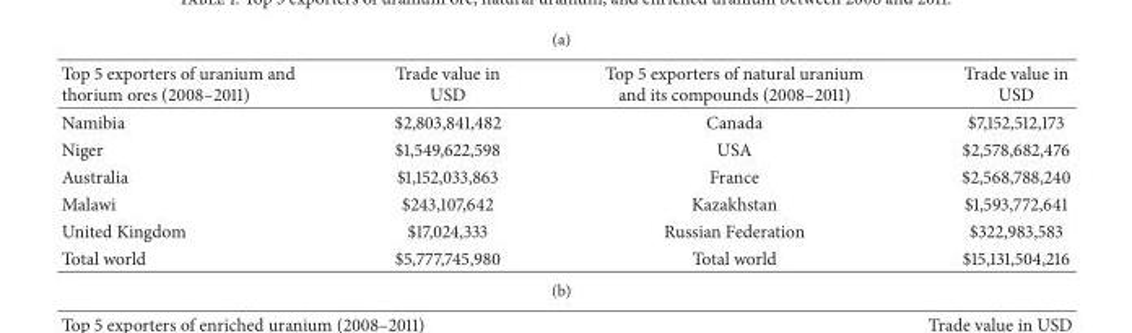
<table><thead><tr><td>Top 5 exporters of uranium and thorium ores (2008–2011)</td><td>Trade value in USD</td><td>Top 5 exporters of natural uranium and its compounds (2008–2011)</td><td>Trade value in USD</td></tr></thead><tbody><tr><td>Namibia</td><td>$2,803,841,482</td><td>Canada</td><td>$7,152,512,173</td></tr><tr><td>Niger</td><td>$1,549,622,598</td><td>USA</td><td>$2,578,682,476</td></tr><tr><td>Australia</td><td>$1,152,033,863</td><td>France</td><td>$2,568,788,240</td></tr><tr><td>Malawi</td><td>$243,107,642</td><td>Kazakhstan</td><td>$1,593,772,641</td></tr><tr><td>United Kingdom</td><td>$17,024,333</td><td>Russian Federation</td><td>$322,983,583</td></tr><tr><td>Total world</td><td>$5,777,745,980</td><td>Total world</td><td>$15,131,504,216</td></tr></tbody></table>